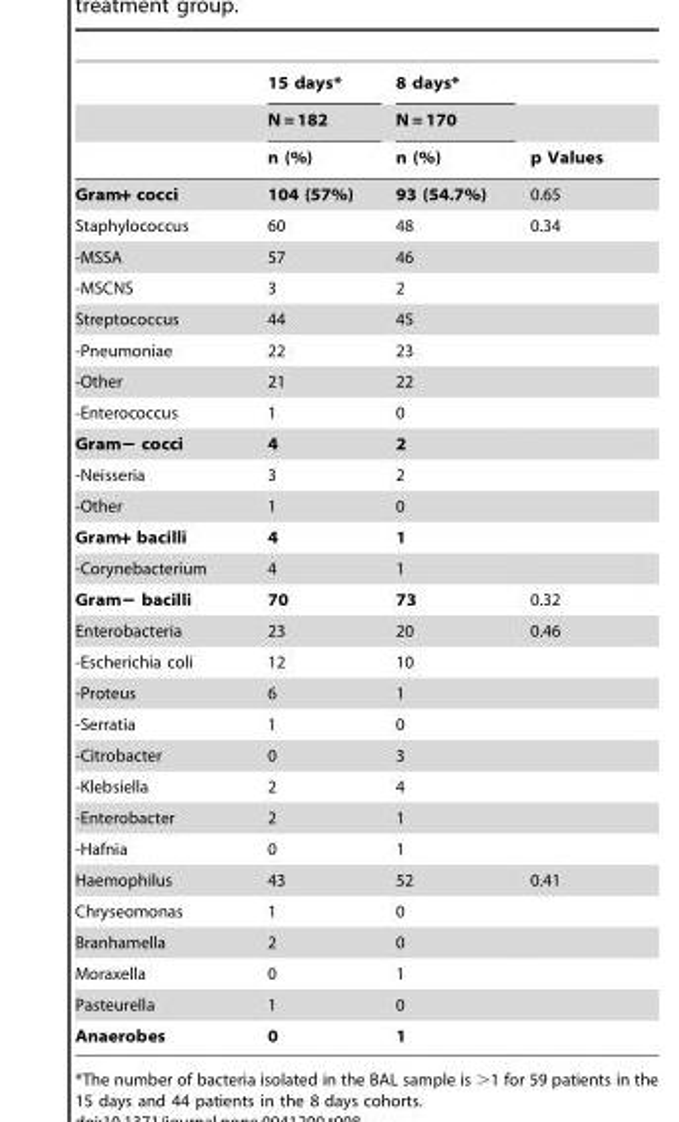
<table><thead><tr><td rowspan="3"></td><td rowspan="3">15 days* N = 182 n (%)</td><td rowspan="3">8 days* N = 170 n (%)</td><td rowspan="3">p Values</td></tr><tr></tr><tr></tr></thead><tbody><tr><td>Gram+ cocci</td><td>104 (57%)</td><td>93 (54.7%)</td><td>0.65</td></tr><tr><td>Staphylococcus</td><td>60</td><td>48</td><td>0.34</td></tr><tr><td>-MSSA</td><td>57</td><td>46</td><td></td></tr><tr><td>-MSCNS</td><td>3</td><td>2</td><td></td></tr><tr><td>Streptococcus</td><td>44</td><td>45</td><td></td></tr><tr><td>-Pneumoniae</td><td>22</td><td>23</td><td></td></tr><tr><td>-Other</td><td>21</td><td>22</td><td></td></tr><tr><td>-Enterococcus</td><td>1</td><td>0</td><td></td></tr><tr><td>Gram− cocci</td><td>4</td><td>2</td><td></td></tr><tr><td>-Neisseria</td><td>3</td><td>2</td><td></td></tr><tr><td>-Other</td><td>1</td><td>0</td><td></td></tr><tr><td>Gram+ bacilli</td><td>4</td><td>1</td><td></td></tr><tr><td>-Corynebacterium</td><td>4</td><td>1</td><td></td></tr><tr><td>Gram− bacilli</td><td>70</td><td>73</td><td>0.32</td></tr><tr><td>Enterobacteria</td><td>23</td><td>20</td><td>0.46</td></tr><tr><td>-Escherichia coli</td><td>12</td><td>10</td><td></td></tr><tr><td>-Proteus</td><td>6</td><td>1</td><td></td></tr><tr><td>-Serratia</td><td>1</td><td>0</td><td></td></tr><tr><td>-Citrobacter</td><td>0</td><td>3</td><td></td></tr><tr><td>-Klebsiella</td><td>2</td><td>4</td><td></td></tr><tr><td>-Enterobacter</td><td>2</td><td>1</td><td></td></tr><tr><td>-Hafnia</td><td>0</td><td>1</td><td></td></tr><tr><td>Haemophilus</td><td>43</td><td>52</td><td>0.41</td></tr><tr><td>Chryseomonas</td><td>1</td><td>0</td><td></td></tr><tr><td>Branhamella</td><td>2</td><td>0</td><td></td></tr><tr><td>Moraxella</td><td>0</td><td>1</td><td></td></tr><tr><td>Pasteurella</td><td>1</td><td>0</td><td></td></tr><tr><td>Anaerobes</td><td>0</td><td>1</td><td></td></tr></tbody></table>